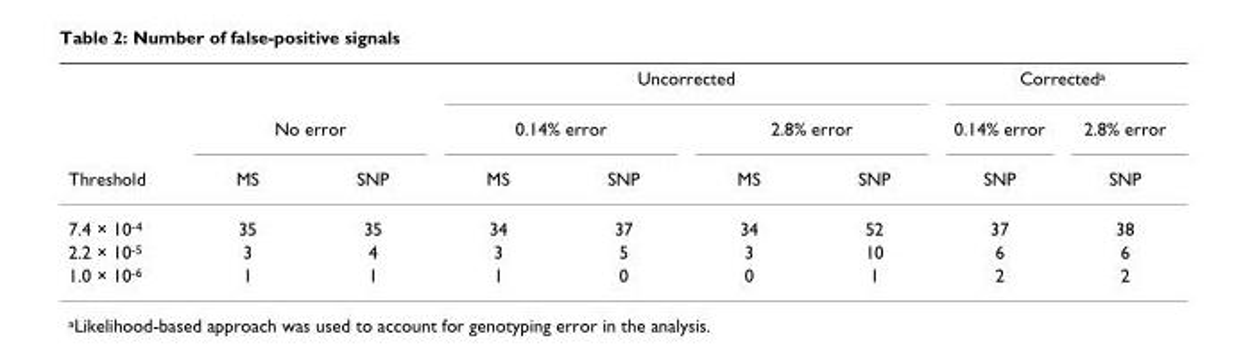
<table><thead><tr><td rowspan="3">Threshold</td><td></td><td></td><td colspan="4">Uncorrected</td><td colspan="2">Correcteda</td></tr><tr><td colspan="2">No error</td><td colspan="2">0.14% error</td><td colspan="2">2.8% error</td><td rowspan="2">0.14% error SNP</td><td rowspan="2">2.8% error SNP</td></tr><tr><td>MS</td><td>SNP</td><td>MS</td><td>SNP</td><td>MS</td><td>SNP</td></tr></thead><tbody><tr><td>7.4 × 10-4</td><td>35</td><td>35</td><td>34</td><td>37</td><td>34</td><td>52</td><td>37</td><td>38</td></tr><tr><td>2.2 × 10-5</td><td>3</td><td>4</td><td>3</td><td>5</td><td>3</td><td>10</td><td>6</td><td>6</td></tr><tr><td>1.0 × 10-6</td><td>1</td><td>1</td><td>1</td><td>0</td><td>0</td><td>1</td><td>2</td><td>2</td></tr></tbody></table>